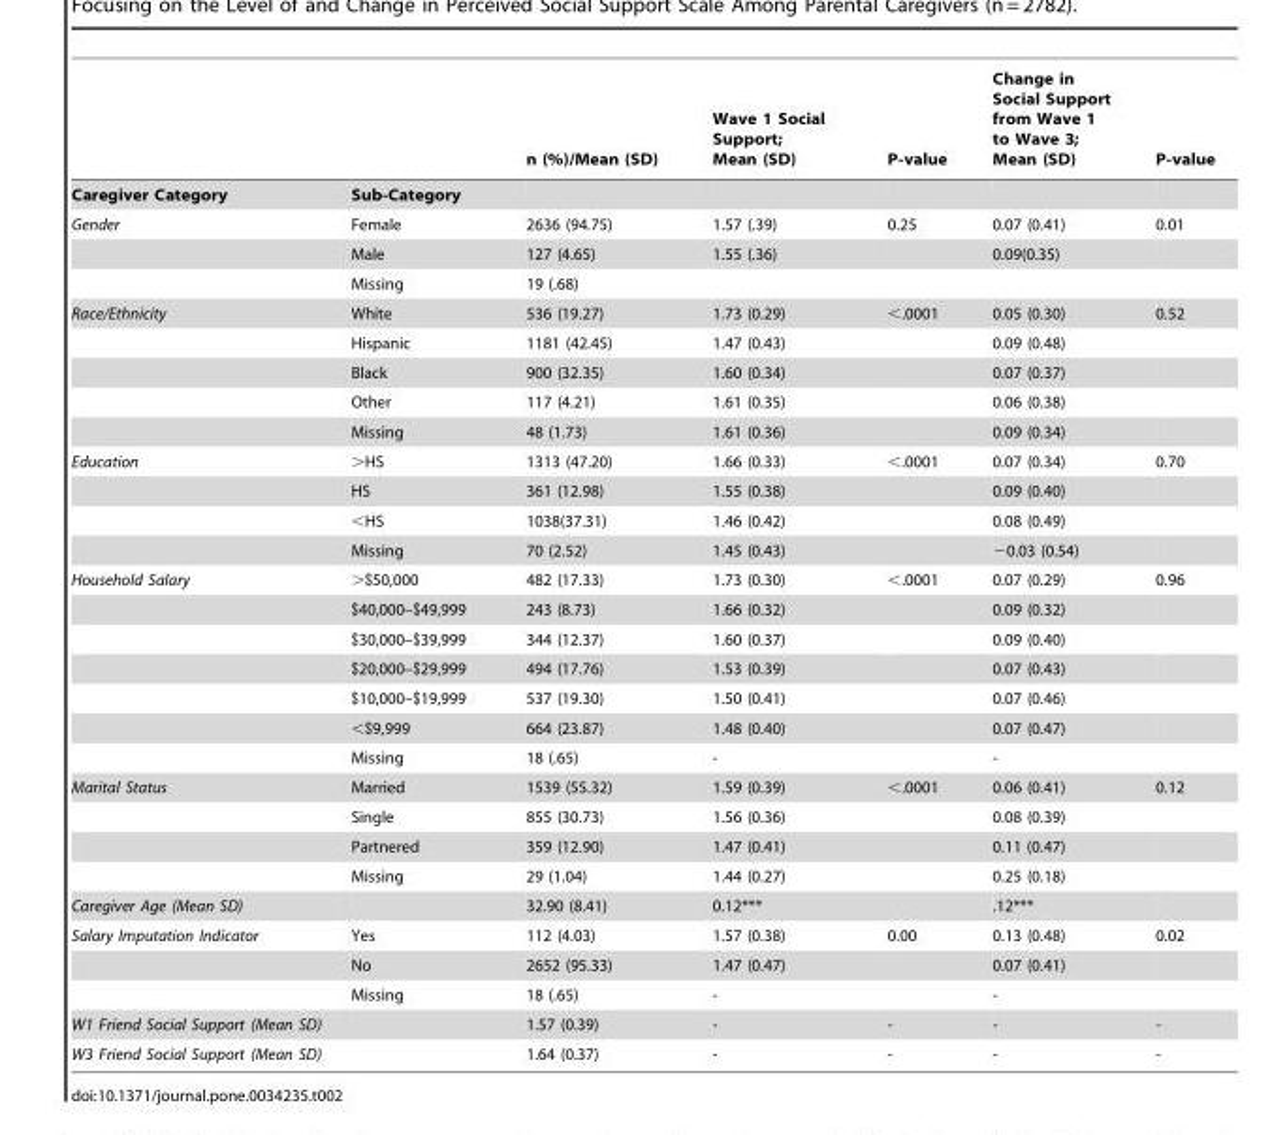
<table><thead><tr><td></td><td></td><td>n (%)/Mean (SD)</td><td>Wave 1 Social Support; Mean (SD)</td><td>P-value</td><td>Change in Social Support from Wave 1 to Wave 3; Mean (SD)</td><td>P-value</td></tr></thead><tbody><tr><td>Caregiver Category</td><td>Sub-Category</td><td></td><td></td><td></td><td></td><td></td></tr><tr><td rowspan="3">Gender</td><td>Female</td><td>2636 (94.75)</td><td>1.57 (.39)</td><td>0.25</td><td>0.07 (0.41)</td><td>0.01</td></tr><tr><td>Male</td><td>127 (4.65)</td><td>1.55 (.36)</td><td></td><td>0.09(0.35)</td><td></td></tr><tr><td>Missing</td><td>19 (.68)</td><td></td><td></td><td></td><td></td></tr><tr><td rowspan="5">Race/Ethnicity</td><td>White</td><td>536 (19.27)</td><td>1.73 (0.29)</td><td>&lt;.0001</td><td>0.05 (0.30)</td><td>0.52</td></tr><tr><td>Hispanic</td><td>1181 (42.45)</td><td>1.47 (0.43)</td><td></td><td>0.09 (0.48)</td><td></td></tr><tr><td>Black</td><td>900 (32.35)</td><td>1.60 (0.34)</td><td></td><td>0.07 (0.37)</td><td></td></tr><tr><td>Other</td><td>117 (4.21)</td><td>1.61 (0.35)</td><td></td><td>0.06 (0.38)</td><td></td></tr><tr><td>Missing</td><td>48 (1.73)</td><td>1.61 (0.36)</td><td></td><td>0.09 (0.34)</td><td></td></tr><tr><td rowspan="4">Education</td><td>&gt;HS</td><td>1313 (47.20)</td><td>1.66 (0.33)</td><td>&lt;.0001</td><td>0.07 (0.34)</td><td>0.70</td></tr><tr><td>HS</td><td>361 (12.98)</td><td>1.55 (0.38)</td><td></td><td>0.09 (0.40)</td><td></td></tr><tr><td>&lt;HS</td><td>1038(37.31)</td><td>1.46 (0.42)</td><td></td><td>0.08 (0.49)</td><td></td></tr><tr><td>Missing</td><td>70 (2.52)</td><td>1.45 (0.43)</td><td></td><td>−0.03 (0.54)</td><td></td></tr><tr><td rowspan="7">Household Salary</td><td>&gt;$50,000</td><td>482 (17.33)</td><td>1.73 (0.30)</td><td>&lt;.0001</td><td>0.07 (0.29)</td><td>0.96</td></tr><tr><td>$40,000–$49,999</td><td>243 (8.73)</td><td>1.66 (0.32)</td><td></td><td>0.09 (0.32)</td><td></td></tr><tr><td>$30,000–$39,999</td><td>344 (12.37)</td><td>1.60 (0.37)</td><td></td><td>0.09 (0.40)</td><td></td></tr><tr><td>$20,000–$29,999</td><td>494 (17.76)</td><td>1.53 (0.39)</td><td></td><td>0.07 (0.43)</td><td></td></tr><tr><td>$10,000–$19,999</td><td>537 (19.30)</td><td>1.50 (0.41)</td><td></td><td>0.07 (0.46)</td><td></td></tr><tr><td>&lt;$9,999</td><td>664 (23.87)</td><td>1.48 (0.40)</td><td></td><td>0.07 (0.47)</td><td></td></tr><tr><td>Missing</td><td>18 (.65)</td><td>-</td><td></td><td>-</td><td></td></tr><tr><td rowspan="4">Marital Status</td><td>Married</td><td>1539 (55.32)</td><td>1.59 (0.39)</td><td>&lt;.0001</td><td>0.06 (0.41)</td><td>0.12</td></tr><tr><td>Single</td><td>855 (30.73)</td><td>1.56 (0.36)</td><td></td><td>0.08 (0.39)</td><td></td></tr><tr><td>Partnered</td><td>359 (12.90)</td><td>1.47 (0.41)</td><td></td><td>0.11 (0.47)</td><td></td></tr><tr><td>Missing</td><td>29 (1.04)</td><td>1.44 (0.27)</td><td></td><td>0.25 (0.18)</td><td></td></tr><tr><td>Caregiver Age (Mean SD)</td><td></td><td>32.90 (8.41)</td><td>0.12***</td><td></td><td>.12***</td><td></td></tr><tr><td rowspan="3">Salary Imputation Indicator</td><td>Yes</td><td>112 (4.03)</td><td>1.57 (0.38)</td><td>0.00</td><td>0.13 (0.48)</td><td>0.02</td></tr><tr><td>No</td><td>2652 (95.33)</td><td>1.47 (0.47)</td><td></td><td>0.07 (0.41)</td><td></td></tr><tr><td>Missing</td><td>18 (.65)</td><td>-</td><td></td><td>-</td><td></td></tr><tr><td>W1 Friend Social Support (Mean SD)</td><td></td><td>1.57 (0.39)</td><td>-</td><td>-</td><td>-</td><td>-</td></tr><tr><td>W3 Friend Social Support (Mean SD)</td><td></td><td>1.64 (0.37)</td><td>-</td><td>-</td><td>-</td><td>-</td></tr></tbody></table>